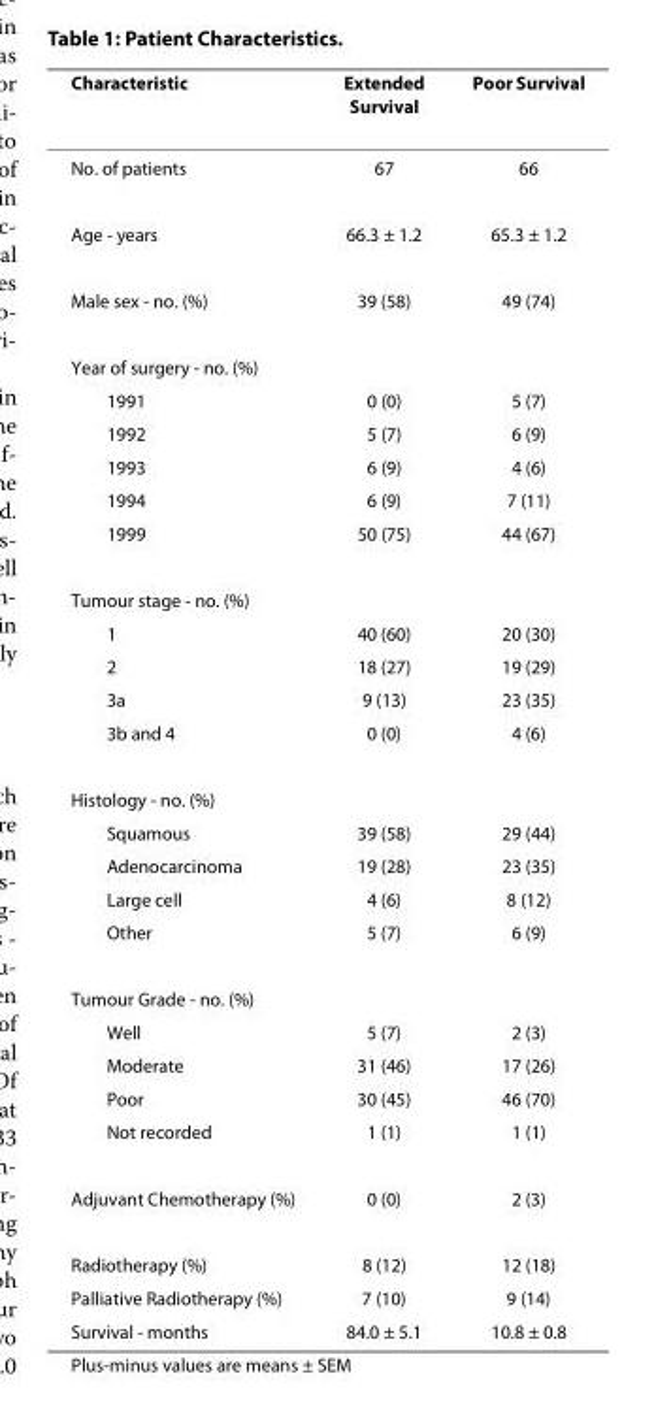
<table><thead><tr><td>Characteristic</td><td>Extended Survival</td><td>Poor Survival</td></tr></thead><tbody><tr><td>No. of patients</td><td>67</td><td>66</td></tr><tr><td>Age - years</td><td>66.3 ± 1.2</td><td>65.3 ± 1.2</td></tr><tr><td>Male sex - no. (%)</td><td>39 (58)</td><td>49 (74)</td></tr><tr><td colspan="3">Year of surgery - no. (%)</td></tr><tr><td>1991</td><td>0 (0)</td><td>5 (7)</td></tr><tr><td>1992</td><td>5 (7)</td><td>6 (9)</td></tr><tr><td>1993</td><td>6 (9)</td><td>4 (6)</td></tr><tr><td>1994</td><td>6 (9)</td><td>7 (11)</td></tr><tr><td>1999</td><td>50 (75)</td><td>44 (67)</td></tr><tr><td colspan="3">Tumour stage - no. (%)</td></tr><tr><td>1</td><td>40 (60)</td><td>20 (30)</td></tr><tr><td>2</td><td>18 (27)</td><td>19 (29)</td></tr><tr><td>3a</td><td>9 (13)</td><td>23 (35)</td></tr><tr><td>3b and 4</td><td>0 (0)</td><td>4 (6)</td></tr><tr><td colspan="3">Histology - no. (%)</td></tr><tr><td>Squamous</td><td>39 (58)</td><td>29 (44)</td></tr><tr><td>Adenocarcinoma</td><td>19 (28)</td><td>23 (35)</td></tr><tr><td>Large cell</td><td>4 (6)</td><td>8 (12)</td></tr><tr><td>Other</td><td>5 (7)</td><td>6 (9)</td></tr><tr><td colspan="3">Tumour Grade - no. (%)</td></tr><tr><td>Well</td><td>5 (7)</td><td>2 (3)</td></tr><tr><td>Moderate</td><td>31 (46)</td><td>17 (26)</td></tr><tr><td>Poor</td><td>30 (45)</td><td>46 (70)</td></tr><tr><td>Not recorded</td><td>1 (1)</td><td>1 (1)</td></tr><tr><td>Adjuvant Chemotherapy (%)</td><td>0 (0)</td><td>2 (3)</td></tr><tr><td>Radiotherapy (%)</td><td>8 (12)</td><td>12 (18)</td></tr><tr><td>Palliative Radiotherapy (%)</td><td>7 (10)</td><td>9 (14)</td></tr><tr><td>Survival - months</td><td>84.0 ± 5.1</td><td>10.8 ± 0.8</td></tr></tbody></table>